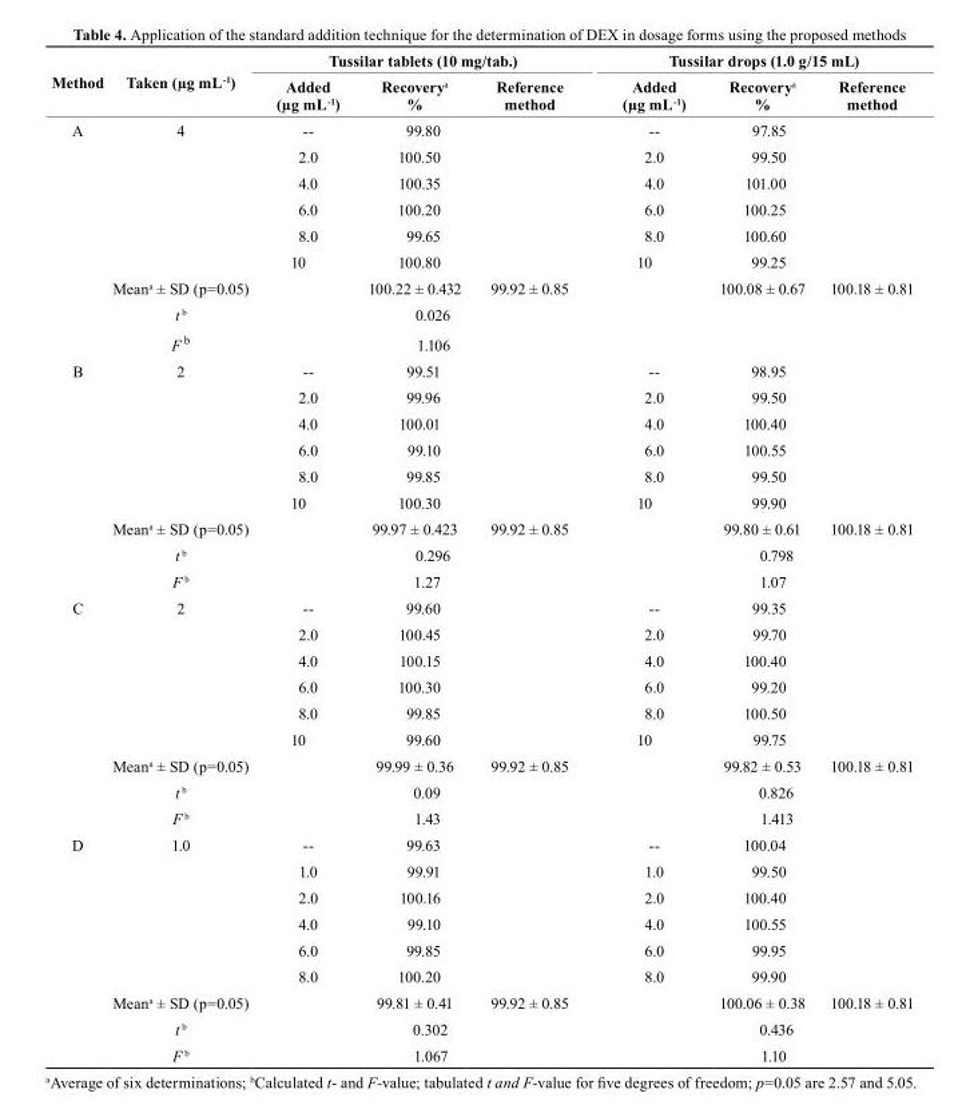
<table><thead><tr><td rowspan="2">Method</td><td rowspan="2">taken (µg mL<sup>-1</sup>)</td><td colspan="3">tussilar tablets (10 mg/tab.)</td><td colspan="3">tussilar drops (1.0 g/15 mL)</td></tr><tr><td>Added (µg mL<sup>-1</sup>)</td><td>recovery<sup>a</sup> %</td><td>reference method</td><td>Added (µg mL<sup>-1</sup>)</td><td>recovery<sup>a</sup> %</td><td>reference method</td></tr></thead><tbody><tr><td rowspan="9">A</td><td>4</td><td>--</td><td>99.80</td><td></td><td>--</td><td>97.85</td><td></td></tr><tr><td></td><td>2.0</td><td>100.50</td><td></td><td>2.0</td><td>99.50</td><td></td></tr><tr><td></td><td>4.0</td><td>100.35</td><td></td><td>4.0</td><td>101.00</td><td></td></tr><tr><td></td><td>6.0</td><td>100.20</td><td></td><td>6.0</td><td>100.25</td><td></td></tr><tr><td></td><td>8.0</td><td>99.65</td><td></td><td>8.0</td><td>100.60</td><td></td></tr><tr><td></td><td>10</td><td>100.80</td><td></td><td>10</td><td>99.25</td><td></td></tr><tr><td>Mean<sup>a</sup> ± SD (p=0.05)</td><td></td><td>100.22 ± 0.432</td><td>99.92 ± 0.85</td><td></td><td>100.08 ± 0.67</td><td>100.18 ± 0.81</td></tr><tr><td>t <sup>b</sup></td><td></td><td>0.026</td><td></td><td></td><td></td><td></td></tr><tr><td>F <sup>b</sup></td><td></td><td>1.106</td><td></td><td></td><td></td><td></td></tr><tr><td rowspan="9">B</td><td>2</td><td>--</td><td>99.51</td><td></td><td>--</td><td>98.95</td><td></td></tr><tr><td></td><td>2.0</td><td>99.96</td><td></td><td>2.0</td><td>99.50</td><td></td></tr><tr><td></td><td>4.0</td><td>100.01</td><td></td><td>4.0</td><td>100.40</td><td></td></tr><tr><td></td><td>6.0</td><td>99.10</td><td></td><td>6.0</td><td>100.55</td><td></td></tr><tr><td></td><td>8.0</td><td>99.85</td><td></td><td>8.0</td><td>99.50</td><td></td></tr><tr><td></td><td>10</td><td>100.30</td><td></td><td>10</td><td>99.90</td><td></td></tr><tr><td>Mean<sup>a</sup> ± SD (p=0.05)</td><td></td><td>99.97 ± 0.423</td><td>99.92 ± 0.85</td><td></td><td>99.80 ± 0.61</td><td>100.18 ± 0.81</td></tr><tr><td>t <sup>b</sup></td><td></td><td>0.296</td><td></td><td></td><td>0.798</td><td></td></tr><tr><td>F <sup>b</sup></td><td></td><td>1.27</td><td></td><td></td><td>1.07</td><td></td></tr><tr><td rowspan="9">C</td><td>2</td><td>--</td><td>99.60</td><td></td><td>--</td><td>99.35</td><td></td></tr><tr><td></td><td>2.0</td><td>100.45</td><td></td><td>2.0</td><td>99.70</td><td></td></tr><tr><td></td><td>4.0</td><td>100.15</td><td></td><td>4.0</td><td>100.40</td><td></td></tr><tr><td></td><td>6.0</td><td>100.30</td><td></td><td>6.0</td><td>99.20</td><td></td></tr><tr><td></td><td>8.0</td><td>99.85</td><td></td><td>8.0</td><td>100.50</td><td></td></tr><tr><td></td><td>10</td><td>99.60</td><td></td><td>10</td><td>99.75</td><td></td></tr><tr><td>Mean<sup>a</sup> ± SD (p=0.05)</td><td></td><td>99.99 ± 0.36</td><td>99.92 ± 0.85</td><td></td><td>99.82 ± 0.53</td><td>100.18 ± 0.81</td></tr><tr><td>t <sup>b</sup></td><td></td><td>0.09</td><td></td><td></td><td>0.826</td><td></td></tr><tr><td>F <sup>b</sup></td><td></td><td>1.43</td><td></td><td></td><td>1.413</td><td></td></tr><tr><td rowspan="9">D</td><td>1.0</td><td>--</td><td>99.63</td><td></td><td>--</td><td>100.04</td><td></td></tr><tr><td></td><td>1.0</td><td>99.91</td><td></td><td>1.0</td><td>99.50</td><td></td></tr><tr><td></td><td>2.0</td><td>100.16</td><td></td><td>2.0</td><td>100.40</td><td></td></tr><tr><td></td><td>4.0</td><td>99.10</td><td></td><td>4.0</td><td>100.55</td><td></td></tr><tr><td></td><td>6.0</td><td>99.85</td><td></td><td>6.0</td><td>99.95</td><td></td></tr><tr><td></td><td>8.0</td><td>100.20</td><td></td><td>8.0</td><td>99.90</td><td></td></tr><tr><td>Mean<sup>a</sup> ± SD (p=0.05)</td><td></td><td>99.81 ± 0.41</td><td>99.92 ± 0.85</td><td></td><td>100.06 ± 0.38</td><td>100.18 ± 0.81</td></tr><tr><td>t <sup>b</sup></td><td></td><td>0.302</td><td></td><td></td><td>0.436</td><td></td></tr><tr><td>F <sup>b</sup></td><td></td><td>1.067</td><td></td><td></td><td>1.10</td><td></td></tr></tbody></table>